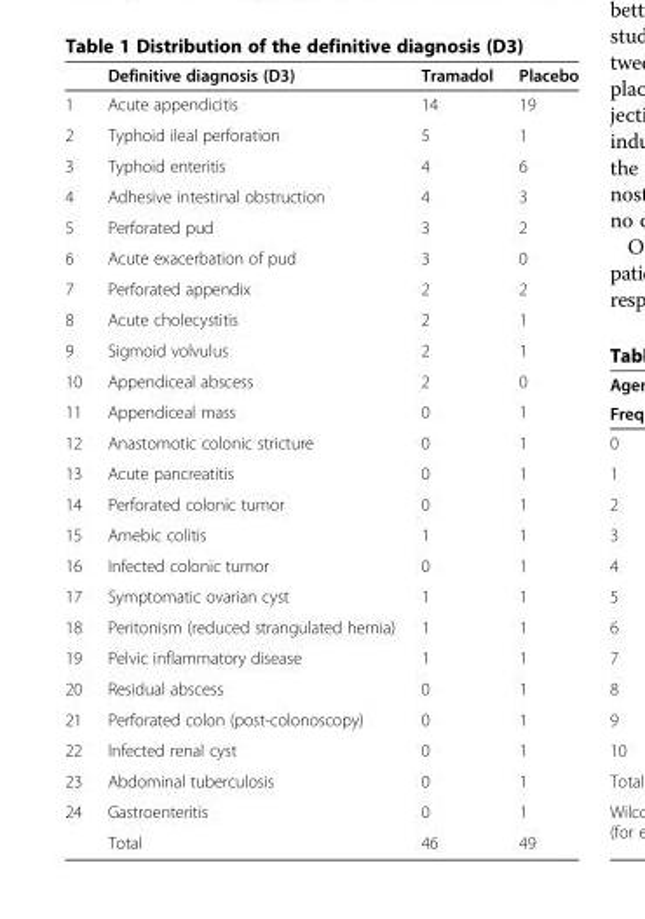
<table><thead><tr><td></td><td>Definitive diagnosis (D3)</td><td>Tramadol</td><td>Placebo</td></tr></thead><tbody><tr><td>1</td><td>Acute appendicitis</td><td>14</td><td>19</td></tr><tr><td>2</td><td>Typhoid ileal perforation</td><td>5</td><td>1</td></tr><tr><td>3</td><td>Typhoid enteritis</td><td>4</td><td>6</td></tr><tr><td>4</td><td>Adhesive intestinal obstruction</td><td>4</td><td>3</td></tr><tr><td>5</td><td>Perforated pud</td><td>3</td><td>2</td></tr><tr><td>6</td><td>Acute exacerbation of pud</td><td>3</td><td>0</td></tr><tr><td>7</td><td>Perforated appendix</td><td>2</td><td>2</td></tr><tr><td>8</td><td>Acute cholecystitis</td><td>2</td><td>1</td></tr><tr><td>9</td><td>Sigmoid volvulus</td><td>2</td><td>1</td></tr><tr><td>10</td><td>Appendiceal abscess</td><td>2</td><td>0</td></tr><tr><td>11</td><td>Appendiceal mass</td><td>0</td><td>1</td></tr><tr><td>12</td><td>Anastomotic colonic stricture</td><td>0</td><td>1</td></tr><tr><td>13</td><td>Acute pancreatitis</td><td>0</td><td>1</td></tr><tr><td>14</td><td>Perforated colonic tumor</td><td>0</td><td>1</td></tr><tr><td>15</td><td>Amebic colitis</td><td>1</td><td>1</td></tr><tr><td>16</td><td>Infected colonic tumor</td><td>0</td><td>1</td></tr><tr><td>17</td><td>Symptomatic ovarian cyst</td><td>1</td><td>1</td></tr><tr><td>18</td><td>Peritonism (reduced strangulated hernia)</td><td>1</td><td>1</td></tr><tr><td>19</td><td>Pelvic inflammatory disease</td><td>1</td><td>1</td></tr><tr><td>20</td><td>Residual abscess</td><td>0</td><td>1</td></tr><tr><td>21</td><td>Perforated colon (post-colonoscopy)</td><td>0</td><td>1</td></tr><tr><td>22</td><td>Infected renal cyst</td><td>0</td><td>1</td></tr><tr><td>23</td><td>Abdominal tuberculosis</td><td>0</td><td>1</td></tr><tr><td rowspan="2">24</td><td>Gastroenteritis</td><td>0</td><td>1</td></tr><tr><td>Total</td><td>46</td><td>49</td></tr></tbody></table>